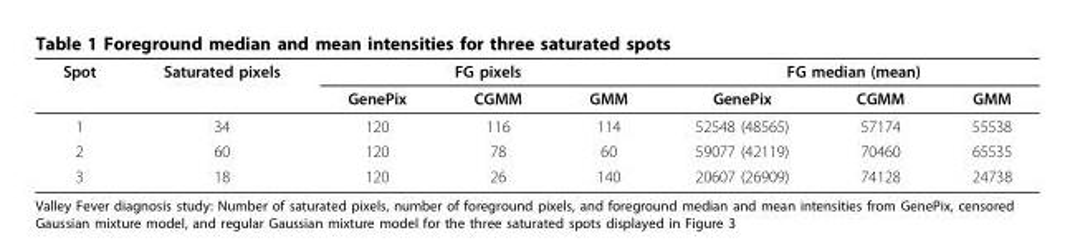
<table><thead><tr><td rowspan="2">Spot</td><td rowspan="2">Saturated pixels</td><td colspan="3">FG pixels</td><td colspan="3">FG median (mean)</td></tr><tr><td>GenePix</td><td>CGMM</td><td>GMM</td><td>GenePix</td><td>CGMM</td><td>GMM</td></tr></thead><tbody><tr><td>1</td><td>34</td><td>120</td><td>116</td><td>114</td><td>52548 (48565)</td><td>57174</td><td>55538</td></tr><tr><td>2</td><td>60</td><td>120</td><td>78</td><td>60</td><td>59077 (42119)</td><td>70460</td><td>65535</td></tr><tr><td>3</td><td>18</td><td>120</td><td>26</td><td>140</td><td>20607 (26909)</td><td>74128</td><td>24738</td></tr></tbody></table>